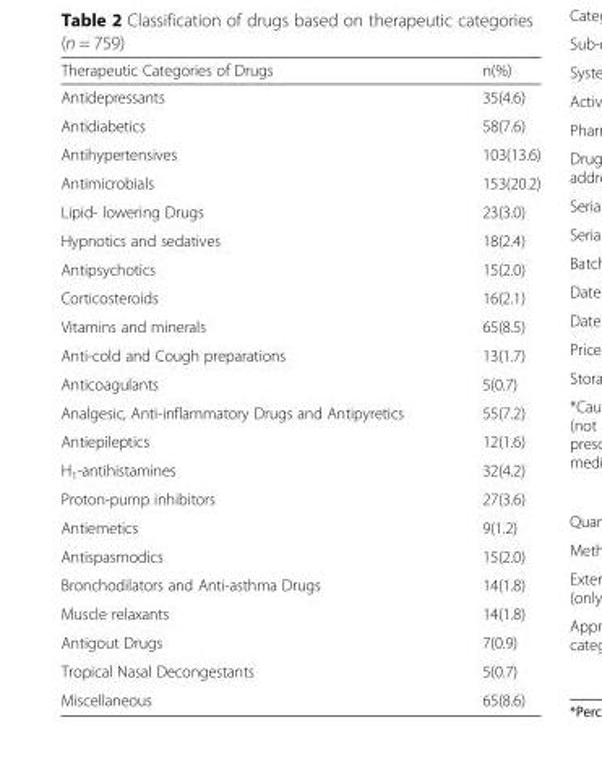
<table><thead><tr><td>Therapeutic Categories of Drugs</td><td>n(%)</td></tr></thead><tbody><tr><td>Antidepressants</td><td>35(4.6)</td></tr><tr><td>Antidiabetics</td><td>58(7.6)</td></tr><tr><td>Antihypertensives</td><td>103(13.6)</td></tr><tr><td>Antimicrobials</td><td>153(20.2)</td></tr><tr><td>Lipid- lowering Drugs</td><td>23(3.0)</td></tr><tr><td>Hypnotics and sedatives</td><td>18(2.4)</td></tr><tr><td>Antipsychotics</td><td>15(2.0)</td></tr><tr><td>Corticosteroids</td><td>16(2.1)</td></tr><tr><td>Vitamins and minerals</td><td>65(8.5)</td></tr><tr><td>Anti-cold and Cough preparations</td><td>13(1.7)</td></tr><tr><td>Anticoagulants</td><td>5(0.7)</td></tr><tr><td>Analgesic, Anti-inflammatory Drugs and Antipyretics</td><td>55(7.2)</td></tr><tr><td>Antiepileptics</td><td>12(1.6)</td></tr><tr><td>H<sub>1</sub>-antihistamines</td><td>32(4.2)</td></tr><tr><td>Proton-pump inhibitors</td><td>27(3.6)</td></tr><tr><td>Antiemetics</td><td>9(1.2)</td></tr><tr><td>Antispasmodics</td><td>15(2.0)</td></tr><tr><td>Bronchodilators and Anti-asthma Drugs</td><td>14(1.8)</td></tr><tr><td>Muscle relaxants</td><td>14(1.8)</td></tr><tr><td>Antigout Drugs</td><td>7(0.9)</td></tr><tr><td>Tropical Nasal Decongestants</td><td>5(0.7)</td></tr><tr><td>Miscellaneous</td><td>65(8.6)</td></tr></tbody></table>